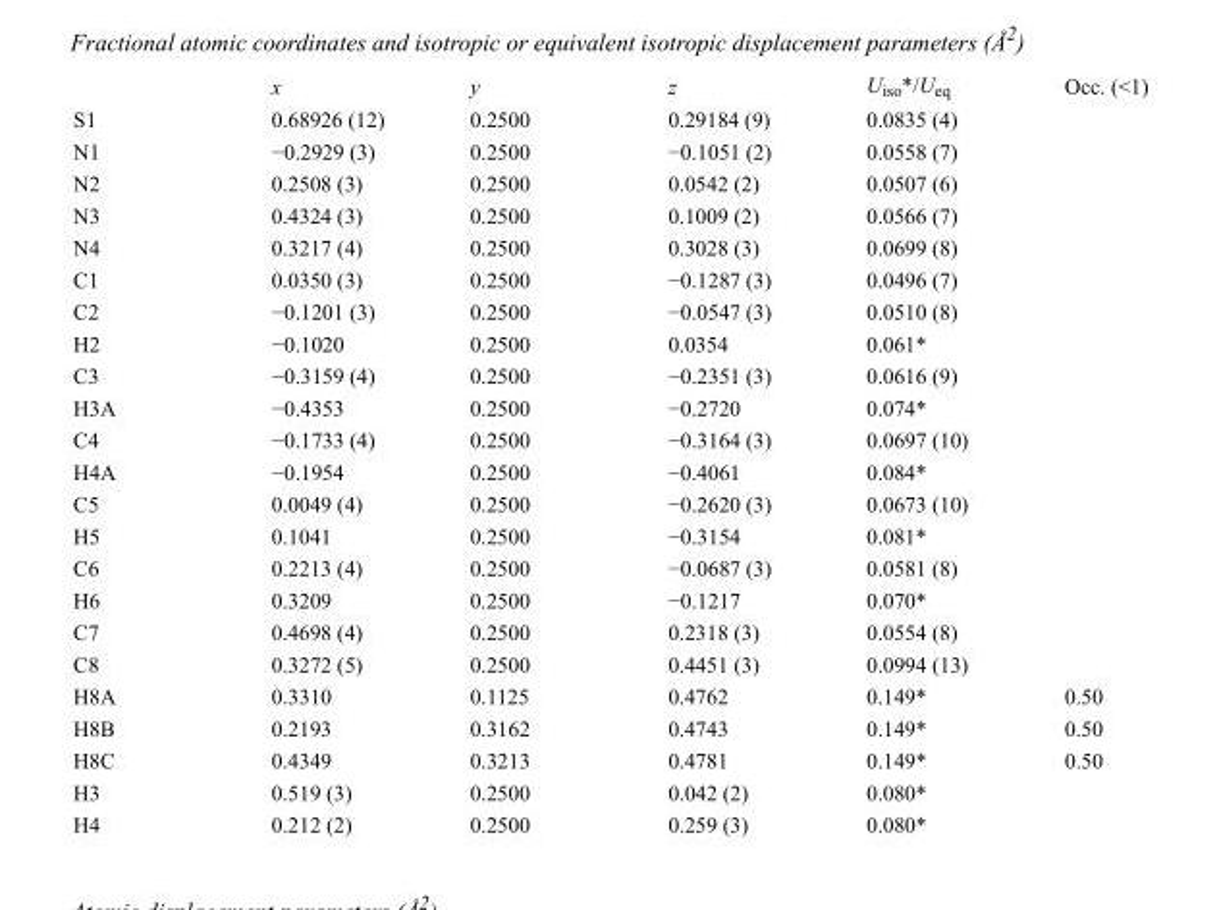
<table><thead><tr><td></td><td>x</td><td>y</td><td>z</td><td>U<sub>iso</sub>*/U<sub>eq</sub></td><td>Occ. (&lt;1)</td></tr></thead><tbody><tr><td>S1</td><td>0.68926 (12)</td><td>0.2500</td><td>0.29184 (9)</td><td>0.0835 (4)</td><td></td></tr><tr><td>N1</td><td>−0.2929 (3)</td><td>0.2500</td><td>−0.1051 (2)</td><td>0.0558 (7)</td><td></td></tr><tr><td>N2</td><td>0.2508 (3)</td><td>0.2500</td><td>0.0542 (2)</td><td>0.0507 (6)</td><td></td></tr><tr><td>N3</td><td>0.4324 (3)</td><td>0.2500</td><td>0.1009 (2)</td><td>0.0566 (7)</td><td></td></tr><tr><td>N4</td><td>0.3217 (4)</td><td>0.2500</td><td>0.3028 (3)</td><td>0.0699 (8)</td><td></td></tr><tr><td>C1</td><td>0.0350 (3)</td><td>0.2500</td><td>−0.1287 (3)</td><td>0.0496 (7)</td><td></td></tr><tr><td>C2</td><td>−0.1201 (3)</td><td>0.2500</td><td>−0.0547 (3)</td><td>0.0510 (8)</td><td></td></tr><tr><td>H2</td><td>−0.1020</td><td>0.2500</td><td>0.0354</td><td>0.061*</td><td></td></tr><tr><td>C3</td><td>−0.3159 (4)</td><td>0.2500</td><td>−0.2351 (3)</td><td>0.0616 (9)</td><td></td></tr><tr><td>H3A</td><td>−0.4353</td><td>0.2500</td><td>−0.2720</td><td>0.074*</td><td></td></tr><tr><td>C4</td><td>−0.1733 (4)</td><td>0.2500</td><td>−0.3164 (3)</td><td>0.0697 (10)</td><td></td></tr><tr><td>H4A</td><td>−0.1954</td><td>0.2500</td><td>−0.4061</td><td>0.084*</td><td></td></tr><tr><td>C5</td><td>0.0049 (4)</td><td>0.2500</td><td>−0.2620 (3)</td><td>0.0673 (10)</td><td></td></tr><tr><td>H5</td><td>0.1041</td><td>0.2500</td><td>−0.3154</td><td>0.081*</td><td></td></tr><tr><td>C6</td><td>0.2213 (4)</td><td>0.2500</td><td>−0.0687 (3)</td><td>0.0581 (8)</td><td></td></tr><tr><td>H6</td><td>0.3209</td><td>0.2500</td><td>−0.1217</td><td>0.070*</td><td></td></tr><tr><td>C7</td><td>0.4698 (4)</td><td>0.2500</td><td>0.2318 (3)</td><td>0.0554 (8)</td><td></td></tr><tr><td>C8</td><td>0.3272 (5)</td><td>0.2500</td><td>0.4451 (3)</td><td>0.0994 (13)</td><td></td></tr><tr><td>H8A</td><td>0.3310</td><td>0.1125</td><td>0.4762</td><td>0.149*</td><td>0.50</td></tr><tr><td>H8B</td><td>0.2193</td><td>0.3162</td><td>0.4743</td><td>0.149*</td><td>0.50</td></tr><tr><td>H8C</td><td>0.4349</td><td>0.3213</td><td>0.4781</td><td>0.149*</td><td>0.50</td></tr><tr><td>H3</td><td>0.519 (3)</td><td>0.2500</td><td>0.042 (2)</td><td>0.080*</td><td></td></tr><tr><td>H4</td><td>0.212 (2)</td><td>0.2500</td><td>0.259 (3)</td><td>0.080*</td><td></td></tr></tbody></table>